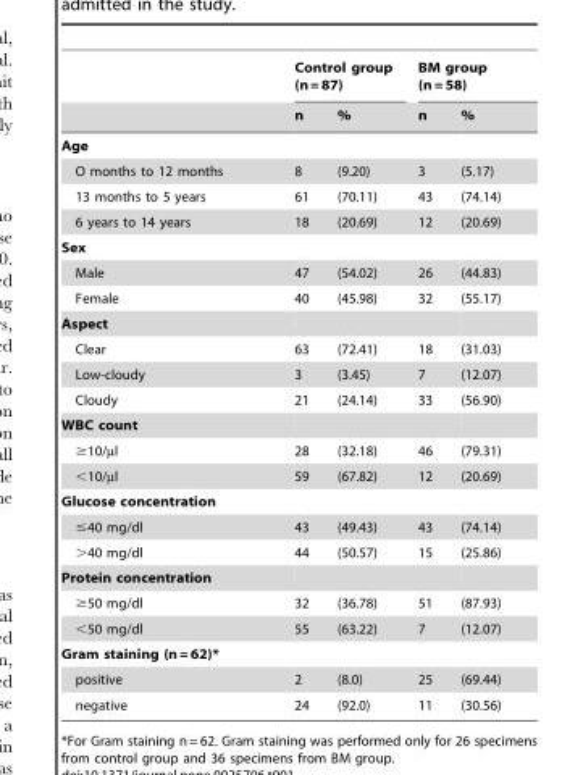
<table><thead><tr><td rowspan="2"></td><td colspan="2">Control group (n = 87)</td><td colspan="2">BM group (n = 58)</td></tr><tr><td>n</td><td>%</td><td>n</td><td>%</td></tr></thead><tbody><tr><td colspan="5">Age</td></tr><tr><td>O months to 12 months</td><td>8</td><td>(9.20)</td><td>3</td><td>(5.17)</td></tr><tr><td>13 months to 5 years</td><td>61</td><td>(70.11)</td><td>43</td><td>(74.14)</td></tr><tr><td>6 years to 14 years</td><td>18</td><td>(20.69)</td><td>12</td><td>(20.69)</td></tr><tr><td colspan="5">Sex</td></tr><tr><td>Male</td><td>47</td><td>(54.02)</td><td>26</td><td>(44.83)</td></tr><tr><td>Female</td><td>40</td><td>(45.98)</td><td>32</td><td>(55.17)</td></tr><tr><td colspan="5">Aspect</td></tr><tr><td>Clear</td><td>63</td><td>(72.41)</td><td>18</td><td>(31.03)</td></tr><tr><td>Low-cloudy</td><td>3</td><td>(3.45)</td><td>7</td><td>(12.07)</td></tr><tr><td>Cloudy</td><td>21</td><td>(24.14)</td><td>33</td><td>(56.90)</td></tr><tr><td colspan="5">WBC count</td></tr><tr><td>≥10/µl</td><td>28</td><td>(32.18)</td><td>46</td><td>(79.31)</td></tr><tr><td>&lt;10/µl</td><td>59</td><td>(67.82)</td><td>12</td><td>(20.69)</td></tr><tr><td colspan="5">Glucose concentration</td></tr><tr><td>≤40 mg/dl</td><td>43</td><td>(49.43)</td><td>43</td><td>(74.14)</td></tr><tr><td>&gt;40 mg/dl</td><td>44</td><td>(50.57)</td><td>15</td><td>(25.86)</td></tr><tr><td colspan="5">Protein concentration</td></tr><tr><td>≥50 mg/dl</td><td>32</td><td>(36.78)</td><td>51</td><td>(87.93)</td></tr><tr><td>&lt;50 mg/dl</td><td>55</td><td>(63.22)</td><td>7</td><td>(12.07)</td></tr><tr><td colspan="5">Gram staining (n = 62)*</td></tr><tr><td>positive</td><td>2</td><td>(8.0)</td><td>25</td><td>(69.44)</td></tr><tr><td>negative</td><td>24</td><td>(92.0)</td><td>11</td><td>(30.56)</td></tr></tbody></table>